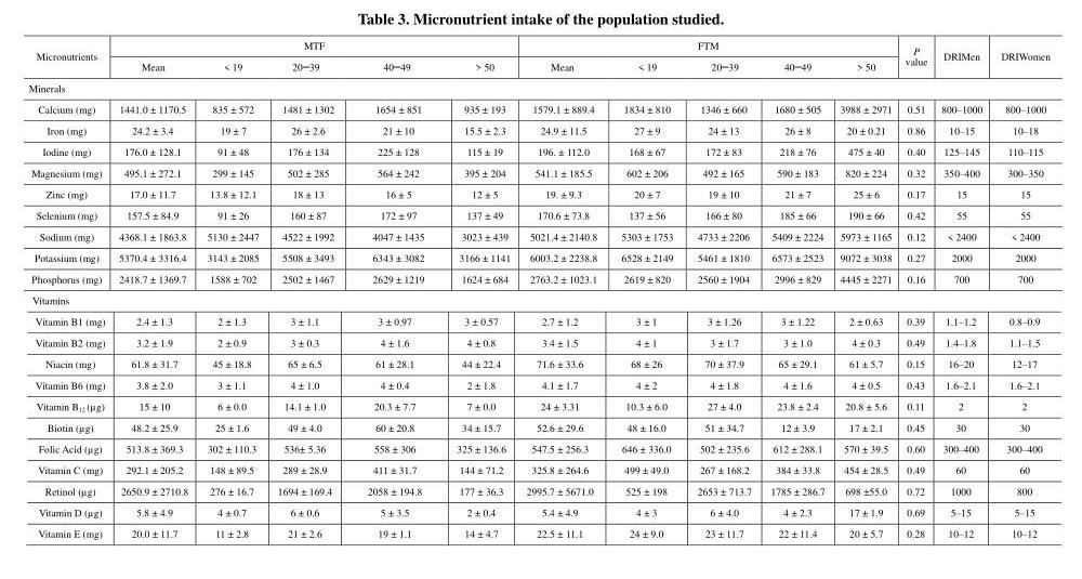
<table><thead><tr><td rowspan="2">Micronutrients</td><td colspan="5">MTF</td><td colspan="5">FTM</td><td rowspan="2">P value</td><td rowspan="2">DRIMen</td><td rowspan="2">DRIWomen</td></tr><tr><td>Mean</td><td>&lt; 19</td><td>20–39</td><td>40–49</td><td>&gt; 50</td><td>Mean</td><td>&lt; 19</td><td>20–39</td><td>40–49</td><td>&gt; 50</td></tr></thead><tbody><tr><td colspan="14">Minerals</td></tr><tr><td>Calcium (mg)</td><td>1441.0 ± 1170.5</td><td>835 ± 572</td><td>1481 ± 1302</td><td>1654 ± 851</td><td>935 ± 193</td><td>1579.1 ± 889.4</td><td>1834 ± 810</td><td>1346 ± 660</td><td>1680 ± 505</td><td>3988 ± 2971</td><td>0.51</td><td>800–1000</td><td>800–1000</td></tr><tr><td>Iron (mg)</td><td>24.2 ± 3.4</td><td>19 ± 7</td><td>26 ± 2.6</td><td>21 ± 10</td><td>15.5 ± 2.3</td><td>24.9 ± 11.5</td><td>27 ± 9</td><td>24 ± 13</td><td>26 ± 8</td><td>20 ± 0.21</td><td>0.86</td><td>10–15</td><td>10–18</td></tr><tr><td>Iodine (mg)</td><td>176.0 ± 128.1</td><td>91 ± 48</td><td>176 ± 134</td><td>225 ± 128</td><td>115 ± 19</td><td>196. ± 112.0</td><td>168 ± 67</td><td>172 ± 83</td><td>218 ± 76</td><td>475 ± 40</td><td>0.40</td><td>125–145</td><td>110–115</td></tr><tr><td>Magnesium (mg)</td><td>495.1 ± 272.1</td><td>299 ± 145</td><td>502 ± 285</td><td>564 ± 242</td><td>395 ± 204</td><td>541.1 ± 185.5</td><td>602 ± 206</td><td>492 ± 165</td><td>590 ± 183</td><td>820 ± 224</td><td>0.32</td><td>350–400</td><td>300–350</td></tr><tr><td>Zinc (mg)</td><td>17.0 ± 11.7</td><td>13.8 ± 12.1</td><td>18 ± 13</td><td>16 ± 5</td><td>12 ± 5</td><td>19. ± 9.3</td><td>20 ± 7</td><td>19 ± 10</td><td>21 ± 7</td><td>25 ± 6</td><td>0.17</td><td>15</td><td>15</td></tr><tr><td>Selenium (mg)</td><td>157.5 ± 84.9</td><td>91 ± 26</td><td>160 ± 87</td><td>172 ± 97</td><td>137 ± 49</td><td>170.6 ± 73.8</td><td>137 ± 56</td><td>166 ± 80</td><td>185 ± 66</td><td>190 ± 66</td><td>0.42</td><td>55</td><td>55</td></tr><tr><td>Sodium (mg)</td><td>4368.1 ± 1863.8</td><td>5130 ± 2447</td><td>4522 ± 1992</td><td>4047 ± 1435</td><td>3023 ± 439</td><td>5021.4 ± 2140.8</td><td>5303 ± 1753</td><td>4733 ± 2206</td><td>5409 ± 2224</td><td>5973 ± 1165</td><td>0.12</td><td>&lt; 2400</td><td>&lt; 2400</td></tr><tr><td>Potassium (mg)</td><td>5370.4 ± 3316.4</td><td>3143 ± 2085</td><td>5508 ± 3493</td><td>6343 ± 3082</td><td>3166 ± 1141</td><td>6003.2 ± 2238.8</td><td>6528 ± 2149</td><td>5461 ± 1810</td><td>6573 ± 2523</td><td>9072 ± 3038</td><td>0.27</td><td>2000</td><td>2000</td></tr><tr><td>Phosphorus (mg)</td><td>2418.7 ± 1369.7</td><td>1588 ± 702</td><td>2502 ± 1467</td><td>2629 ± 1219</td><td>1624 ± 684</td><td>2763.2 ± 1023.1</td><td>2619 ± 820</td><td>2560 ± 1904</td><td>2996 ± 829</td><td>4445 ± 2271</td><td>0.16</td><td>700</td><td>700</td></tr><tr><td colspan="14">Vitamins</td></tr><tr><td>Vitamin B1 (mg)</td><td>2.4 ± 1.3</td><td>2 ± 1.3</td><td>3 ± 1.1</td><td>3 ± 0.97</td><td>3 ± 0.57</td><td>2.7 ± 1.2</td><td>3 ± 1</td><td>3 ± 1.26</td><td>3 ± 1.22</td><td>2 ± 0.63</td><td>0.39</td><td>1.1–1.2</td><td>0.8–0.9</td></tr><tr><td>Vitamin B2 (mg)</td><td>3.2 ± 1.9</td><td>2 ± 0.9</td><td>3 ± 0.3</td><td>4 ± 1.6</td><td>4 ± 0.8</td><td>3.4 ± 1.5</td><td>4 ± 1</td><td>3 ± 1.7</td><td>3 ± 1.0</td><td>4 ± 0.3</td><td>0.49</td><td>1.4–1.8</td><td>1.1–1.5</td></tr><tr><td>Niacin (mg)</td><td>61.8 ± 31.7</td><td>45 ± 18.8</td><td>65 ± 6.5</td><td>61 ± 28.1</td><td>44 ± 22.4</td><td>71.6 ± 33.6</td><td>68 ± 26</td><td>70 ± 37.9</td><td>65 ± 29.1</td><td>61 ± 5.7</td><td>0.15</td><td>16–20</td><td>12–17</td></tr><tr><td>Vitamin B6 (mg)</td><td>3.8 ± 2.0</td><td>3 ± 1.1</td><td>4 ± 1.0</td><td>4 ± 0.4</td><td>2 ± 1.8</td><td>4.1 ± 1.7</td><td>4 ± 2</td><td>4 ± 1.8</td><td>4 ± 1.6</td><td>4 ± 0.5</td><td>0.43</td><td>1.6–2.1</td><td>1.6–2.1</td></tr><tr><td>Vitamin B<sub>12</sub> (µg)</td><td>15 ± 10</td><td>6 ± 0.0</td><td>14.1 ± 1.0</td><td>20.3 ± 7.7</td><td>7 ± 0.0</td><td>24 ± 3.31</td><td>10.3 ± 6.0</td><td>27 ± 4.0</td><td>23.8 ± 2.4</td><td>20.8 ± 5.6</td><td>0.11</td><td>2</td><td>2</td></tr><tr><td>Biotin (µg)</td><td>48.2 ± 25.9</td><td>25 ± 1.6</td><td>49 ± 4.0</td><td>60 ± 20.8</td><td>34 ± 15.7</td><td>52.6 ± 29.6</td><td>48 ± 16.0</td><td>51 ± 34.7</td><td>12 ± 3.9</td><td>17 ± 2.1</td><td>0.45</td><td>30</td><td>30</td></tr><tr><td>Folic Acid (µg)</td><td>513.8 ± 369.3</td><td>302 ± 110.3</td><td>536± 5.36</td><td>558 ± 306</td><td>325 ± 136.6</td><td>547.5 ± 256.3</td><td>646 ± 336.0</td><td>502 ± 235.6</td><td>612 ± 288.1</td><td>570 ± 39.5</td><td>0.60</td><td>300–400</td><td>300–400</td></tr><tr><td>Vitamin C (mg)</td><td>292.1 ± 205.2</td><td>148 ± 89.5</td><td>289 ± 28.9</td><td>411 ± 31.7</td><td>144 ± 71.2</td><td>325.8 ± 264.6</td><td>499 ± 49.0</td><td>267 ± 168.2</td><td>384 ± 33.8</td><td>454 ± 28.5</td><td>0.49</td><td>60</td><td>60</td></tr><tr><td>Retinol (µg)</td><td>2650.9 ± 2710.8</td><td>276 ± 16.7</td><td>1694 ± 169.4</td><td>2058 ± 194.8</td><td>177 ± 36.3</td><td>2995.7 ± 5671.0</td><td>525 ± 198</td><td>2653 ± 713.7</td><td>1785 ± 286.7</td><td>698 ±55.0</td><td>0.72</td><td>1000</td><td>800</td></tr><tr><td>Vitamin D (µg)</td><td>5.8 ± 4.9</td><td>4 ± 0.7</td><td>6 ± 0.6</td><td>5 ± 3.5</td><td>2 ± 0.4</td><td>5.4 ± 4.9</td><td>4 ± 3</td><td>6 ± 4.0</td><td>4 ± 2.3</td><td>17 ± 1.9</td><td>0.69</td><td>5–15</td><td>5–15</td></tr><tr><td>Vitamin E (mg)</td><td>20.0 ± 11.7</td><td>11 ± 2.8</td><td>21 ± 2.6</td><td>19 ± 1.1</td><td>14 ± 4.7</td><td>22.5 ± 11.1</td><td>24 ± 9.0</td><td>23 ± 11.7</td><td>22 ± 11.4</td><td>20 ± 5.7</td><td>0.28</td><td>10–12</td><td>10–12</td></tr></tbody></table>